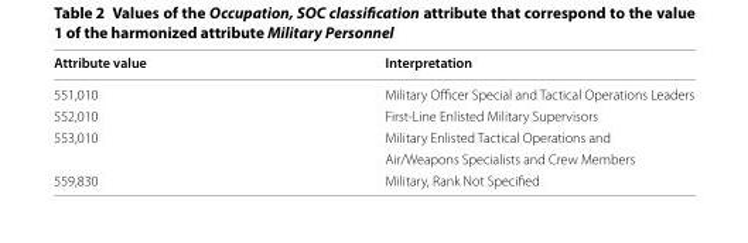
<table><thead><tr><td>Attribute value</td><td>Interpretation</td></tr></thead><tbody><tr><td>551,010</td><td>Military Officer Special and Tactical Operations Leaders</td></tr><tr><td>552,010</td><td>First-Line Enlisted Military Supervisors</td></tr><tr><td rowspan="2">553,010</td><td>Military Enlisted Tactical Operations and</td></tr><tr><td>Air/Weapons Specialists and Crew Members</td></tr><tr><td>559,830</td><td>Military, Rank Not Specified</td></tr></tbody></table>